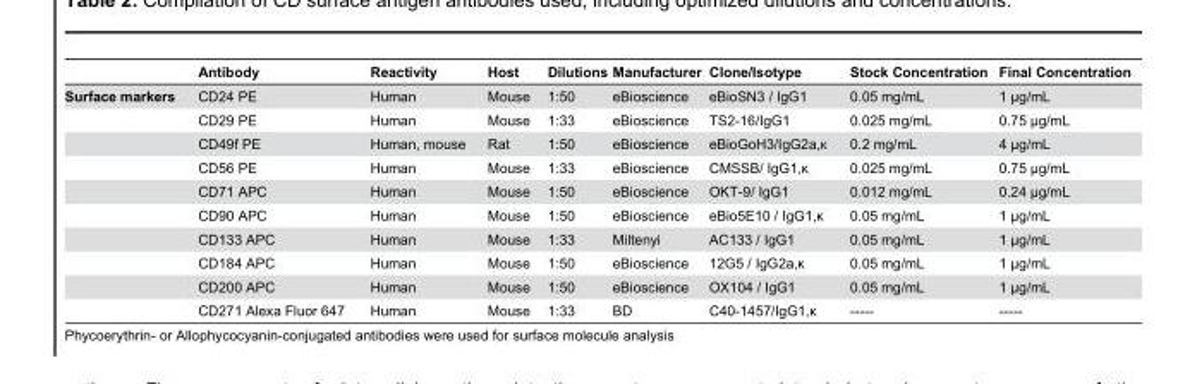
<table><thead><tr><td></td><td>Antibody</td><td>Reactivity</td><td>Host</td><td>Dilutions</td><td>Manufacturer</td><td>Clone/Isotype</td><td>Stock Concentration</td><td>Final Concentration</td></tr></thead><tbody><tr><td rowspan="10">Surface markers</td><td>CD24 PE</td><td>Human</td><td>Mouse</td><td>1:50</td><td>eBioscience</td><td>eBioSN3 / IgG1</td><td>0.05 mg/mL</td><td>1 µg/mL</td></tr><tr><td>CD29 PE</td><td>Human</td><td>Mouse</td><td>1:33</td><td>eBioscience</td><td>TS2-16/IgG1</td><td>0.025 mg/mL</td><td>0.75 µg/mL</td></tr><tr><td>CD49f PE</td><td>Human, mouse</td><td>Rat</td><td>1:50</td><td>eBioscience</td><td>eBioGoH3/IgG2a,к</td><td>0.2 mg/mL</td><td>4 µg/mL</td></tr><tr><td>CD56 PE</td><td>Human</td><td>Mouse</td><td>1:33</td><td>eBioscience</td><td>CMSSB/ IgG1,κ</td><td>0.025 mg/mL</td><td>0.75 µg/mL</td></tr><tr><td>CD71 APC</td><td>Human</td><td>Mouse</td><td>1:50</td><td>eBioscience</td><td>OKT-9/ IgG1</td><td>0.012 mg/mL</td><td>0.24 µg/mL</td></tr><tr><td>CD90 APC</td><td>Human</td><td>Mouse</td><td>1:50</td><td>eBioscience</td><td>eBio5E10 / IgG1,κ</td><td>0.05 mg/mL</td><td>1 µg/mL</td></tr><tr><td>CD133 APC</td><td>Human</td><td>Mouse</td><td>1:33</td><td>Miltenyi</td><td>AC133 / IgG1</td><td>0.05 mg/mL</td><td>1 µg/mL</td></tr><tr><td>CD184 APC</td><td>Human</td><td>Mouse</td><td>1:50</td><td>eBioscience</td><td>12G5 / IgG2a,κ</td><td>0.05 mg/mL</td><td>1 µg/mL</td></tr><tr><td>CD200 APC</td><td>Human</td><td>Mouse</td><td>1:50</td><td>eBioscience</td><td>OX104 / IgG1</td><td>0.05 mg/mL</td><td>1 µg/mL</td></tr><tr><td>CD271 Alexa Fluor 647</td><td>Human</td><td>Mouse</td><td>1:33</td><td>BD</td><td>C40-1457/IgG1,κ</td><td>-----</td><td>-----</td></tr></tbody></table>